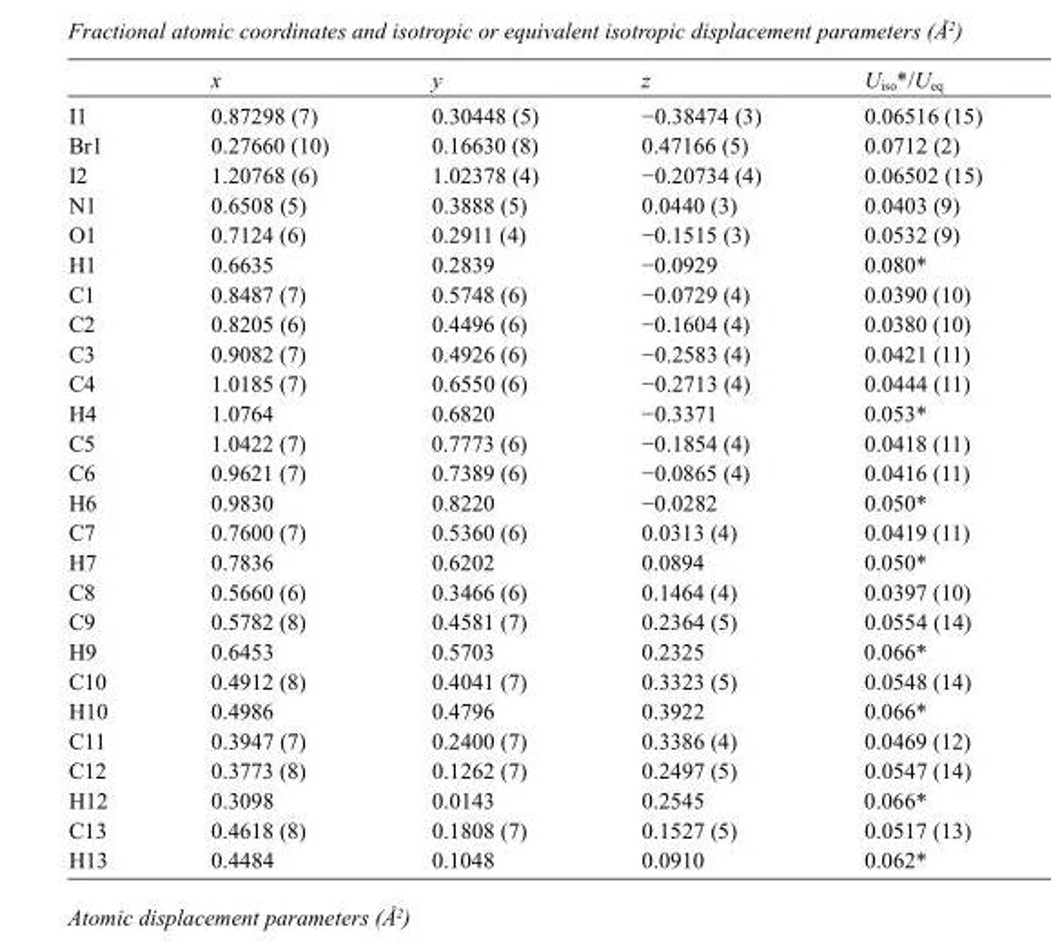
<table><thead><tr><td></td><td>x</td><td>y</td><td>z</td><td>U<sub>iso</sub>*/U<sub>eq</sub></td></tr></thead><tbody><tr><td>I1</td><td>0.87298 (7)</td><td>0.30448 (5)</td><td>−0.38474 (3)</td><td>0.06516 (15)</td></tr><tr><td>Br1</td><td>0.27660 (10)</td><td>0.16630 (8)</td><td>0.47166 (5)</td><td>0.0712 (2)</td></tr><tr><td>I2</td><td>1.20768 (6)</td><td>1.02378 (4)</td><td>−0.20734 (4)</td><td>0.06502 (15)</td></tr><tr><td>N1</td><td>0.6508 (5)</td><td>0.3888 (5)</td><td>0.0440 (3)</td><td>0.0403 (9)</td></tr><tr><td>O1</td><td>0.7124 (6)</td><td>0.2911 (4)</td><td>−0.1515 (3)</td><td>0.0532 (9)</td></tr><tr><td>H1</td><td>0.6635</td><td>0.2839</td><td>−0.0929</td><td>0.080*</td></tr><tr><td>C1</td><td>0.8487 (7)</td><td>0.5748 (6)</td><td>−0.0729 (4)</td><td>0.0390 (10)</td></tr><tr><td>C2</td><td>0.8205 (6)</td><td>0.4496 (6)</td><td>−0.1604 (4)</td><td>0.0380 (10)</td></tr><tr><td>C3</td><td>0.9082 (7)</td><td>0.4926 (6)</td><td>−0.2583 (4)</td><td>0.0421 (11)</td></tr><tr><td>C4</td><td>1.0185 (7)</td><td>0.6550 (6)</td><td>−0.2713 (4)</td><td>0.0444 (11)</td></tr><tr><td>H4</td><td>1.0764</td><td>0.6820</td><td>−0.3371</td><td>0.053*</td></tr><tr><td>C5</td><td>1.0422 (7)</td><td>0.7773 (6)</td><td>−0.1854 (4)</td><td>0.0418 (11)</td></tr><tr><td>C6</td><td>0.9621 (7)</td><td>0.7389 (6)</td><td>−0.0865 (4)</td><td>0.0416 (11)</td></tr><tr><td>H6</td><td>0.9830</td><td>0.8220</td><td>−0.0282</td><td>0.050*</td></tr><tr><td>C7</td><td>0.7600 (7)</td><td>0.5360 (6)</td><td>0.0313 (4)</td><td>0.0419 (11)</td></tr><tr><td>H7</td><td>0.7836</td><td>0.6202</td><td>0.0894</td><td>0.050*</td></tr><tr><td>C8</td><td>0.5660 (6)</td><td>0.3466 (6)</td><td>0.1464 (4)</td><td>0.0397 (10)</td></tr><tr><td>C9</td><td>0.5782 (8)</td><td>0.4581 (7)</td><td>0.2364 (5)</td><td>0.0554 (14)</td></tr><tr><td>H9</td><td>0.6453</td><td>0.5703</td><td>0.2325</td><td>0.066*</td></tr><tr><td>C10</td><td>0.4912 (8)</td><td>0.4041 (7)</td><td>0.3323 (5)</td><td>0.0548 (14)</td></tr><tr><td>H10</td><td>0.4986</td><td>0.4796</td><td>0.3922</td><td>0.066*</td></tr><tr><td>C11</td><td>0.3947 (7)</td><td>0.2400 (7)</td><td>0.3386 (4)</td><td>0.0469 (12)</td></tr><tr><td>C12</td><td>0.3773 (8)</td><td>0.1262 (7)</td><td>0.2497 (5)</td><td>0.0547 (14)</td></tr><tr><td>H12</td><td>0.3098</td><td>0.0143</td><td>0.2545</td><td>0.066*</td></tr><tr><td>C13</td><td>0.4618 (8)</td><td>0.1808 (7)</td><td>0.1527 (5)</td><td>0.0517 (13)</td></tr><tr><td>H13</td><td>0.4484</td><td>0.1048</td><td>0.0910</td><td>0.062*</td></tr></tbody></table>